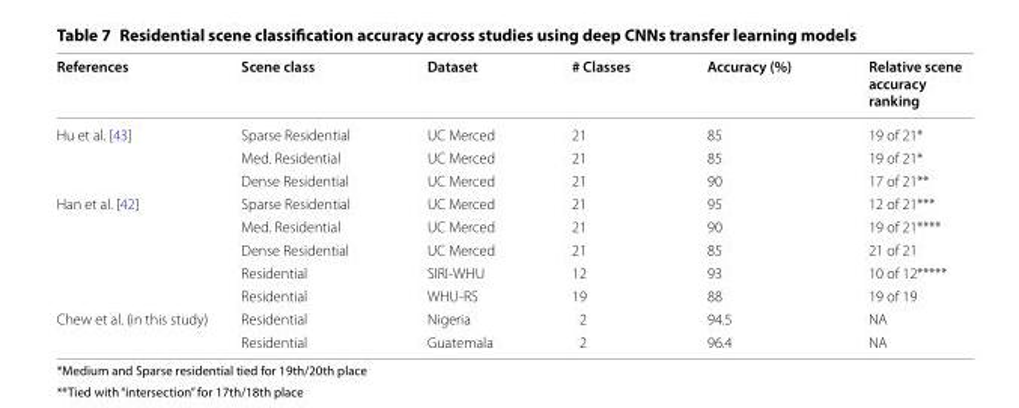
<table><thead><tr><td>References</td><td>Scene class</td><td>Dataset</td><td># Classes</td><td>Accuracy (%)</td><td>Relative scene accuracy ranking</td></tr></thead><tbody><tr><td rowspan="3">Hu et al. [43]</td><td>Sparse Residential</td><td>UC Merced</td><td>21</td><td>85</td><td>19 of 21*</td></tr><tr><td>Med. Residential</td><td>UC Merced</td><td>21</td><td>85</td><td>19 of 21*</td></tr><tr><td>Dense Residential</td><td>UC Merced</td><td>21</td><td>90</td><td>17 of 21**</td></tr><tr><td rowspan="5">Han et al. [42]</td><td>Sparse Residential</td><td>UC Merced</td><td>21</td><td>95</td><td>12 of 21***</td></tr><tr><td>Med. Residential</td><td>UC Merced</td><td>21</td><td>90</td><td>19 of 21****</td></tr><tr><td>Dense Residential</td><td>UC Merced</td><td>21</td><td>85</td><td>21 of 21</td></tr><tr><td>Residential</td><td>SIRI-WHU</td><td>12</td><td>93</td><td>10 of 12*****</td></tr><tr><td>Residential</td><td>WHU-RS</td><td>19</td><td>88</td><td>19 of 19</td></tr><tr><td rowspan="2">Chew et al. (in this study)</td><td>Residential</td><td>Nigeria</td><td>2</td><td>94.5</td><td>NA</td></tr><tr><td>Residential</td><td>Guatemala</td><td>2</td><td>96.4</td><td>NA</td></tr></tbody></table>